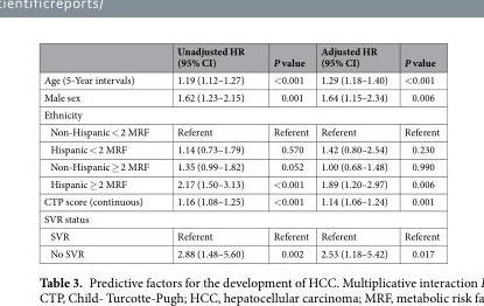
<table><thead><tr><td></td><td>Unadjusted HR (95% CI)</td><td>P value</td><td>Adjusted HR (95% CI)</td><td>P value</td></tr></thead><tbody><tr><td>Age (5-Year intervals)</td><td>1.19 (1.12–1.27)</td><td>&lt;0.001</td><td>1.29 (1.18–1.40)</td><td>&lt;0.001</td></tr><tr><td>Male sex</td><td>1.62 (1.23–2.15)</td><td>0.001</td><td>1.64 (1.15–2.34)</td><td>0.006</td></tr><tr><td colspan="5">Ethnicity</td></tr><tr><td>Non-Hispanic &lt; 2 MRF</td><td>Referent</td><td>Referent</td><td>Referent</td><td>Referent</td></tr><tr><td>Hispanic &lt; 2 MRF</td><td>1.14 (0.73–1.79)</td><td>0.570</td><td>1.42 (0.80–2.54)</td><td>0.230</td></tr><tr><td>Non-Hispanic ≥ 2 MRF</td><td>1.35 (0.99–1.82)</td><td>0.052</td><td>1.00 (0.68–1.48)</td><td>0.990</td></tr><tr><td>Hispanic ≥ 2 MRF</td><td>2.17 (1.50–3.13)</td><td>&lt;0.001</td><td>1.89 (1.20–2.97)</td><td>0.006</td></tr><tr><td>CTP score (continuous)</td><td>1.16 (1.08–1.25)</td><td>&lt;0.001</td><td>1.14 (1.06–1.24)</td><td>0.001</td></tr><tr><td colspan="5">SVR status</td></tr><tr><td>SVR</td><td>Referent</td><td>Referent</td><td>Referent</td><td>Referent</td></tr><tr><td>No SVR</td><td>2.88 (1.48–5.60)</td><td>0.002</td><td>2.53 (1.18–5.42)</td><td>0.017</td></tr></tbody></table>